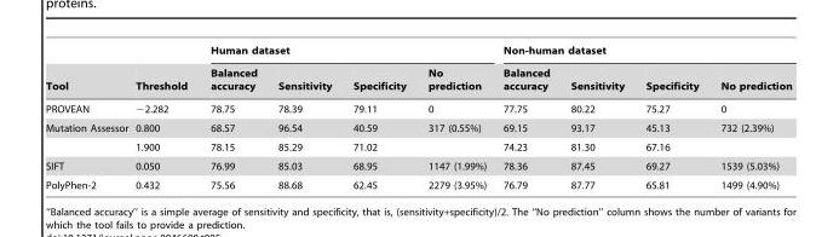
<table><thead><tr><td rowspan="2">Tool</td><td rowspan="2">Threshold</td><td colspan="4">Human dataset</td><td colspan="4">Non-human dataset</td></tr><tr><td>Balanced accuracy</td><td>Sensitivity</td><td>Specificity</td><td>No prediction</td><td>Balanced accuracy</td><td>Sensitivity</td><td>Specificity</td><td>No prediction</td></tr></thead><tbody><tr><td>PROVEAN</td><td>−2.282</td><td>78.75</td><td>78.39</td><td>79.11</td><td>0</td><td>77.75</td><td>80.22</td><td>75.27</td><td>0</td></tr><tr><td rowspan="2">Mutation Assessor</td><td>0.800</td><td>68.57</td><td>96.54</td><td>40.59</td><td>317 (0.55%)</td><td>69.15</td><td>93.17</td><td>45.13</td><td>732 (2.39%)</td></tr><tr><td>1.900</td><td>78.15</td><td>85.29</td><td>71.02</td><td></td><td>74.23</td><td>81.30</td><td>67.16</td><td></td></tr><tr><td>SIFT</td><td>0.050</td><td>76.99</td><td>85.03</td><td>68.95</td><td>1147 (1.99%)</td><td>78.36</td><td>87.45</td><td>69.27</td><td>1539 (5.03%)</td></tr><tr><td>PolyPhen-2</td><td>0.432</td><td>75.56</td><td>88.68</td><td>62.45</td><td>2279 (3.95%)</td><td>76.79</td><td>87.77</td><td>65.81</td><td>1499 (4.90%)</td></tr></tbody></table>